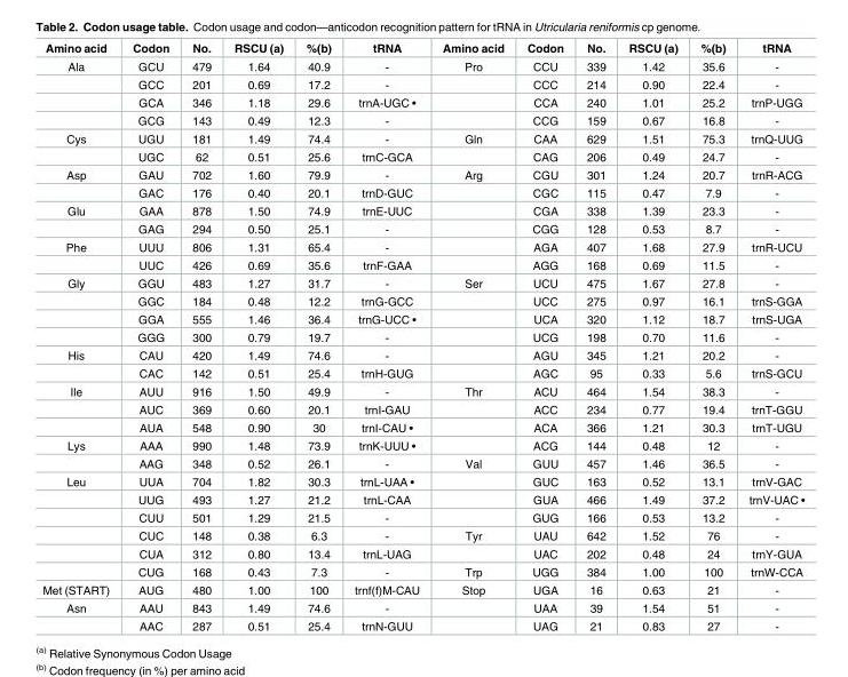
<table><thead><tr><td>Amino acid</td><td>Codon</td><td>No.</td><td>RSCU (a)</td><td>%(b)</td><td>tRNA</td><td>Amino acid</td><td>Codon</td><td>No.</td><td>RSCU (a)</td><td>%(b)</td><td>tRNA</td></tr></thead><tbody><tr><td rowspan="4">Ala</td><td>GCU</td><td>479</td><td>1.64</td><td>40.9</td><td>-</td><td>Pro</td><td>CCU</td><td>339</td><td>1.42</td><td>35.6</td><td>-</td></tr><tr><td>GCC</td><td>201</td><td>0.69</td><td>17.2</td><td>-</td><td></td><td>CCC</td><td>214</td><td>0.90</td><td>22.4</td><td>-</td></tr><tr><td>GCA</td><td>346</td><td>1.18</td><td>29.6</td><td>trnA-UGC •</td><td></td><td>CCA</td><td>240</td><td>1.01</td><td>25.2</td><td>trnP-UGG</td></tr><tr><td>GCG</td><td>143</td><td>0.49</td><td>12.3</td><td>-</td><td></td><td>CCG</td><td>159</td><td>0.67</td><td>16.8</td><td>-</td></tr><tr><td rowspan="2">Cys</td><td>UGU</td><td>181</td><td>1.49</td><td>74.4</td><td>-</td><td>Gln</td><td>CAA</td><td>629</td><td>1.51</td><td>75.3</td><td>trnQ-UUG</td></tr><tr><td>UGC</td><td>62</td><td>0.51</td><td>25.6</td><td>trnC-GCA</td><td></td><td>CAG</td><td>206</td><td>0.49</td><td>24.7</td><td>-</td></tr><tr><td rowspan="2">Asp</td><td>GAU</td><td>702</td><td>1.60</td><td>79.9</td><td>-</td><td>Arg</td><td>CGU</td><td>301</td><td>1.24</td><td>20.7</td><td>trnR-ACG</td></tr><tr><td>GAC</td><td>176</td><td>0.40</td><td>20.1</td><td>trnD-GUC</td><td></td><td>CGC</td><td>115</td><td>0.47</td><td>7.9</td><td>-</td></tr><tr><td rowspan="2">Glu</td><td>GAA</td><td>878</td><td>1.50</td><td>74.9</td><td>trnE-UUC</td><td></td><td>CGA</td><td>338</td><td>1.39</td><td>23.3</td><td>-</td></tr><tr><td>GAG</td><td>294</td><td>0.50</td><td>25.1</td><td>-</td><td></td><td>CGG</td><td>128</td><td>0.53</td><td>8.7</td><td>-</td></tr><tr><td rowspan="2">Phe</td><td>UUU</td><td>806</td><td>1.31</td><td>65.4</td><td>-</td><td></td><td>AGA</td><td>407</td><td>1.68</td><td>27.9</td><td>trnR-UCU</td></tr><tr><td>UUC</td><td>426</td><td>0.69</td><td>35.6</td><td>trnF-GAA</td><td></td><td>AGG</td><td>168</td><td>0.69</td><td>11.5</td><td>-</td></tr><tr><td rowspan="4">Gly</td><td>GGU</td><td>483</td><td>1.27</td><td>31.7</td><td>-</td><td>Ser</td><td>UCU</td><td>475</td><td>1.67</td><td>27.8</td><td>-</td></tr><tr><td>GGC</td><td>184</td><td>0.48</td><td>12.2</td><td>trnG-GCC</td><td></td><td>UCC</td><td>275</td><td>0.97</td><td>16.1</td><td>trnS-GGA</td></tr><tr><td>GGA</td><td>555</td><td>1.46</td><td>36.4</td><td>trnG-UCC •</td><td></td><td>UCA</td><td>320</td><td>1.12</td><td>18.7</td><td>trnS-UGA</td></tr><tr><td>GGG</td><td>300</td><td>0.79</td><td>19.7</td><td>-</td><td></td><td>UCG</td><td>198</td><td>0.70</td><td>11.6</td><td>-</td></tr><tr><td rowspan="2">His</td><td>CAU</td><td>420</td><td>1.49</td><td>74.6</td><td>-</td><td></td><td>AGU</td><td>345</td><td>1.21</td><td>20.2</td><td>-</td></tr><tr><td>CAC</td><td>142</td><td>0.51</td><td>25.4</td><td>trnH-GUG</td><td></td><td>AGC</td><td>95</td><td>0.33</td><td>5.6</td><td>trnS-GCU</td></tr><tr><td rowspan="3">Ile</td><td>AUU</td><td>916</td><td>1.50</td><td>49.9</td><td>-</td><td>Thr</td><td>ACU</td><td>464</td><td>1.54</td><td>38.3</td><td>-</td></tr><tr><td>AUC</td><td>369</td><td>0.60</td><td>20.1</td><td>trnI-GAU</td><td></td><td>ACC</td><td>234</td><td>0.77</td><td>19.4</td><td>trnT-GGU</td></tr><tr><td>AUA</td><td>548</td><td>0.90</td><td>30</td><td>trnI-CAU •</td><td></td><td>ACA</td><td>366</td><td>1.21</td><td>30.3</td><td>trnT-UGU</td></tr><tr><td rowspan="2">Lys</td><td>AAA</td><td>990</td><td>1.48</td><td>73.9</td><td>trnK-UUU •</td><td></td><td>ACG</td><td>144</td><td>0.48</td><td>12</td><td>-</td></tr><tr><td>AAG</td><td>348</td><td>0.52</td><td>26.1</td><td>-</td><td>Val</td><td>GUU</td><td>457</td><td>1.46</td><td>36.5</td><td>-</td></tr><tr><td rowspan="6">Leu</td><td>UUA</td><td>704</td><td>1.82</td><td>30.3</td><td>trnL-UAA •</td><td></td><td>GUC</td><td>163</td><td>0.52</td><td>13.1</td><td>trnV-GAC</td></tr><tr><td>UUG</td><td>493</td><td>1.27</td><td>21.2</td><td>trnL-CAA</td><td></td><td>GUA</td><td>466</td><td>1.49</td><td>37.2</td><td>trnV-UAC •</td></tr><tr><td>CUU</td><td>501</td><td>1.29</td><td>21.5</td><td>-</td><td></td><td>GUG</td><td>166</td><td>0.53</td><td>13.2</td><td>-</td></tr><tr><td>CUC</td><td>148</td><td>0.38</td><td>6.3</td><td>-</td><td>Tyr</td><td>UAU</td><td>642</td><td>1.52</td><td>76</td><td>-</td></tr><tr><td>CUA</td><td>312</td><td>0.80</td><td>13.4</td><td>trnL-UAG</td><td></td><td>UAC</td><td>202</td><td>0.48</td><td>24</td><td>trnY-GUA</td></tr><tr><td>CUG</td><td>168</td><td>0.43</td><td>7.3</td><td>-</td><td>Trp</td><td>UGG</td><td>384</td><td>1.00</td><td>100</td><td>trnW-CCA</td></tr><tr><td>Met (START)</td><td>AUG</td><td>480</td><td>1.00</td><td>100</td><td>trnf(f)M-CAU</td><td>Stop</td><td>UGA</td><td>16</td><td>0.63</td><td>21</td><td>-</td></tr><tr><td rowspan="2">Asn</td><td>AAU</td><td>843</td><td>1.49</td><td>74.6</td><td>-</td><td></td><td>UAA</td><td>39</td><td>1.54</td><td>51</td><td>-</td></tr><tr><td>AAC</td><td>287</td><td>0.51</td><td>25.4</td><td>trnN-GUU</td><td></td><td>UAG</td><td>21</td><td>0.83</td><td>27</td><td>-</td></tr></tbody></table>